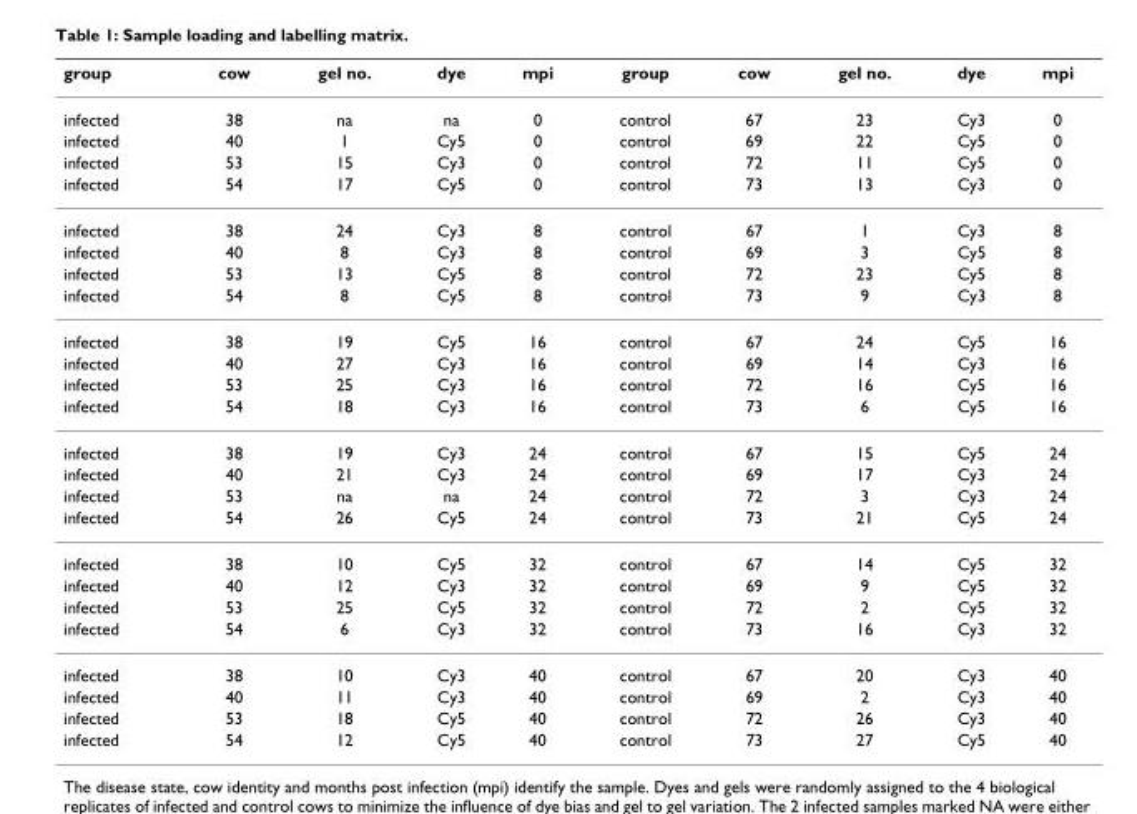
<table><thead><tr><td>group</td><td>cow</td><td>gel no.</td><td>dye</td><td>mpi</td><td>group</td><td>cow</td><td>gel no.</td><td>dye</td><td>mpi</td></tr></thead><tbody><tr><td>infected</td><td>38</td><td>na</td><td>na</td><td>0</td><td>control</td><td>67</td><td>23</td><td>Cy3</td><td>0</td></tr><tr><td>infected</td><td>40</td><td>1</td><td>Cy5</td><td>0</td><td>control</td><td>69</td><td>22</td><td>Cy5</td><td>0</td></tr><tr><td>infected</td><td>53</td><td>15</td><td>Cy3</td><td>0</td><td>control</td><td>72</td><td>11</td><td>Cy5</td><td>0</td></tr><tr><td>infected</td><td>54</td><td>17</td><td>Cy5</td><td>0</td><td>control</td><td>73</td><td>13</td><td>Cy3</td><td>0</td></tr><tr><td>infected</td><td>38</td><td>24</td><td>Cy3</td><td>8</td><td>control</td><td>67</td><td>1</td><td>Cy3</td><td>8</td></tr><tr><td>infected</td><td>40</td><td>8</td><td>Cy3</td><td>8</td><td>control</td><td>69</td><td>3</td><td>Cy5</td><td>8</td></tr><tr><td>infected</td><td>53</td><td>13</td><td>Cy5</td><td>8</td><td>control</td><td>72</td><td>23</td><td>Cy5</td><td>8</td></tr><tr><td>infected</td><td>54</td><td>8</td><td>Cy5</td><td>8</td><td>control</td><td>73</td><td>9</td><td>Cy3</td><td>8</td></tr><tr><td>infected</td><td>38</td><td>19</td><td>Cy5</td><td>16</td><td>control</td><td>67</td><td>24</td><td>Cy5</td><td>16</td></tr><tr><td>infected</td><td>40</td><td>27</td><td>Cy3</td><td>16</td><td>control</td><td>69</td><td>14</td><td>Cy3</td><td>16</td></tr><tr><td>infected</td><td>53</td><td>25</td><td>Cy3</td><td>16</td><td>control</td><td>72</td><td>16</td><td>Cy5</td><td>16</td></tr><tr><td>infected</td><td>54</td><td>18</td><td>Cy3</td><td>16</td><td>control</td><td>73</td><td>6</td><td>Cy5</td><td>16</td></tr><tr><td>infected</td><td>38</td><td>19</td><td>Cy3</td><td>24</td><td>control</td><td>67</td><td>15</td><td>Cy5</td><td>24</td></tr><tr><td>infected</td><td>40</td><td>21</td><td>Cy3</td><td>24</td><td>control</td><td>69</td><td>17</td><td>Cy3</td><td>24</td></tr><tr><td>infected</td><td>53</td><td>na</td><td>na</td><td>24</td><td>control</td><td>72</td><td>3</td><td>Cy3</td><td>24</td></tr><tr><td>infected</td><td>54</td><td>26</td><td>Cy5</td><td>24</td><td>control</td><td>73</td><td>21</td><td>Cy5</td><td>24</td></tr><tr><td>infected</td><td>38</td><td>10</td><td>Cy5</td><td>32</td><td>control</td><td>67</td><td>14</td><td>Cy5</td><td>32</td></tr><tr><td>infected</td><td>40</td><td>12</td><td>Cy3</td><td>32</td><td>control</td><td>69</td><td>9</td><td>Cy5</td><td>32</td></tr><tr><td>infected</td><td>53</td><td>25</td><td>Cy5</td><td>32</td><td>control</td><td>72</td><td>2</td><td>Cy5</td><td>32</td></tr><tr><td>infected</td><td>54</td><td>6</td><td>Cy3</td><td>32</td><td>control</td><td>73</td><td>16</td><td>Cy3</td><td>32</td></tr><tr><td>infected</td><td>38</td><td>10</td><td>Cy3</td><td>40</td><td>control</td><td>67</td><td>20</td><td>Cy3</td><td>40</td></tr><tr><td>infected</td><td>40</td><td>11</td><td>Cy3</td><td>40</td><td>control</td><td>69</td><td>2</td><td>Cy3</td><td>40</td></tr><tr><td>infected</td><td>53</td><td>18</td><td>Cy5</td><td>40</td><td>control</td><td>72</td><td>26</td><td>Cy3</td><td>40</td></tr><tr><td>infected</td><td>54</td><td>12</td><td>Cy5</td><td>40</td><td>control</td><td>73</td><td>27</td><td>Cy5</td><td>40</td></tr></tbody></table>